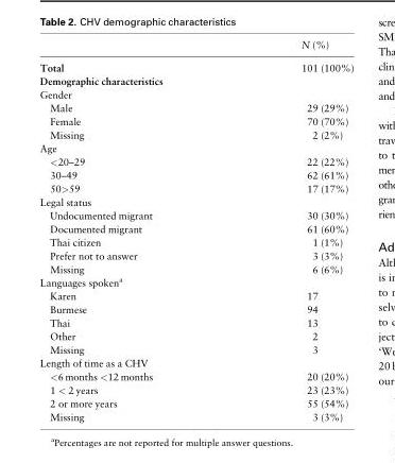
<table><thead><tr><td></td><td>N (%)</td></tr></thead><tbody><tr><td>Total</td><td>101 (100%)</td></tr><tr><td colspan="2">Demographic characteristics</td></tr><tr><td colspan="2">Gender</td></tr><tr><td>Male</td><td>29 (29%)</td></tr><tr><td>Female</td><td>70 (70%)</td></tr><tr><td>Missing</td><td>2 (2%)</td></tr><tr><td colspan="2">Age</td></tr><tr><td>&lt;20–29</td><td>22 (22%)</td></tr><tr><td>30–49</td><td>62 (61%)</td></tr><tr><td>50&gt;59</td><td>17 (17%)</td></tr><tr><td colspan="2">Legal status</td></tr><tr><td>Undocumented migrant</td><td>30 (30%)</td></tr><tr><td>Documented migrant</td><td>61 (60%)</td></tr><tr><td>Thai citizen</td><td>1 (1%)</td></tr><tr><td>Prefer not to answer</td><td>3 (3%)</td></tr><tr><td>Missing</td><td>6 (6%)</td></tr><tr><td colspan="2">Languages spoken<sup>a</sup></td></tr><tr><td>Karen</td><td>17</td></tr><tr><td>Burmese</td><td>94</td></tr><tr><td>Thai</td><td>13</td></tr><tr><td>Other</td><td>2</td></tr><tr><td>Missing</td><td>3</td></tr><tr><td colspan="2">Length of time as a CHV</td></tr><tr><td>&lt;6 months &lt;12 months</td><td>20 (20%)</td></tr><tr><td>1 &lt; 2 years</td><td>23 (23%)</td></tr><tr><td>2 or more years</td><td>55 (54%)</td></tr><tr><td>Missing</td><td>3 (3%)</td></tr></tbody></table>